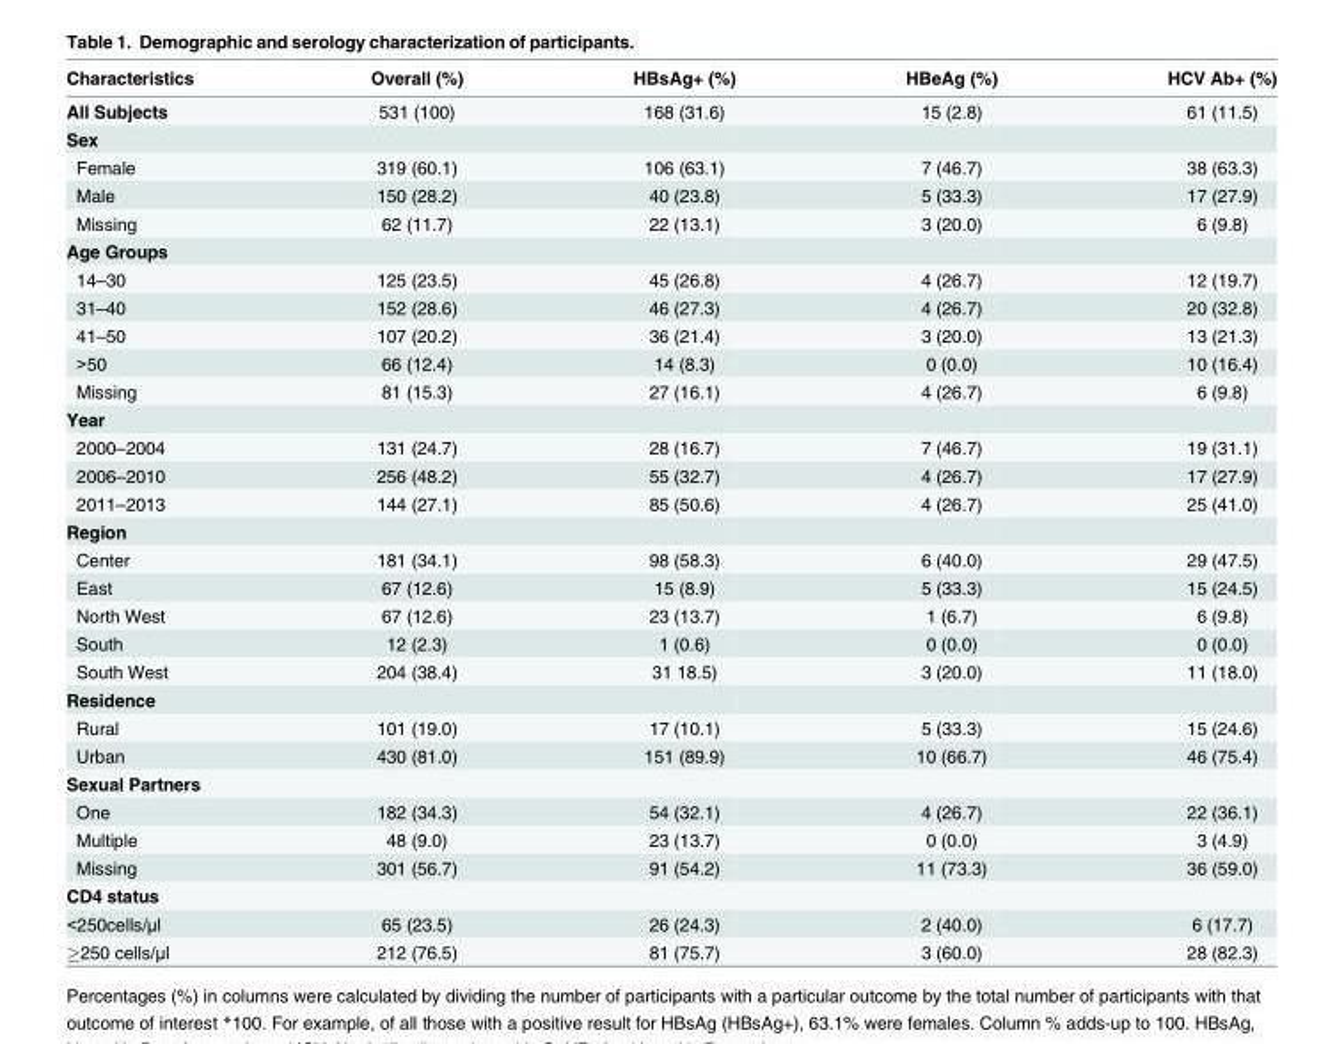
<table><thead><tr><td>Characteristics</td><td>Overall (%)</td><td>HBsAg+ (%)</td><td>HBeAg (%)</td><td>HCV Ab+ (%)</td></tr></thead><tbody><tr><td>All Subjects</td><td>531 (100)</td><td>168 (31.6)</td><td>15 (2.8)</td><td>61 (11.5)</td></tr><tr><td colspan="5">Sex</td></tr><tr><td>Female</td><td>319 (60.1)</td><td>106 (63.1)</td><td>7 (46.7)</td><td>38 (63.3)</td></tr><tr><td>Male</td><td>150 (28.2)</td><td>40 (23.8)</td><td>5 (33.3)</td><td>17 (27.9)</td></tr><tr><td>Missing</td><td>62 (11.7)</td><td>22 (13.1)</td><td>3 (20.0)</td><td>6 (9.8)</td></tr><tr><td colspan="5">Age Groups</td></tr><tr><td>14–30</td><td>125 (23.5)</td><td>45 (26.8)</td><td>4 (26.7)</td><td>12 (19.7)</td></tr><tr><td>31–40</td><td>152 (28.6)</td><td>46 (27.3)</td><td>4 (26.7)</td><td>20 (32.8)</td></tr><tr><td>41–50</td><td>107 (20.2)</td><td>36 (21.4)</td><td>3 (20.0)</td><td>13 (21.3)</td></tr><tr><td>&gt;50</td><td>66 (12.4)</td><td>14 (8.3)</td><td>0 (0.0)</td><td>10 (16.4)</td></tr><tr><td>Missing</td><td>81 (15.3)</td><td>27 (16.1)</td><td>4 (26.7)</td><td>6 (9.8)</td></tr><tr><td colspan="5">Year</td></tr><tr><td>2000–2004</td><td>131 (24.7)</td><td>28 (16.7)</td><td>7 (46.7)</td><td>19 (31.1)</td></tr><tr><td>2006–2010</td><td>256 (48.2)</td><td>55 (32.7)</td><td>4 (26.7)</td><td>17 (27.9)</td></tr><tr><td>2011–2013</td><td>144 (27.1)</td><td>85 (50.6)</td><td>4 (26.7)</td><td>25 (41.0)</td></tr><tr><td colspan="5">Region</td></tr><tr><td>Center</td><td>181 (34.1)</td><td>98 (58.3)</td><td>6 (40.0)</td><td>29 (47.5)</td></tr><tr><td>East</td><td>67 (12.6)</td><td>15 (8.9)</td><td>5 (33.3)</td><td>15 (24.5)</td></tr><tr><td>North West</td><td>67 (12.6)</td><td>23 (13.7)</td><td>1 (6.7)</td><td>6 (9.8)</td></tr><tr><td>South</td><td>12 (2.3)</td><td>1 (0.6)</td><td>0 (0.0)</td><td>0 (0.0)</td></tr><tr><td>South West</td><td>204 (38.4)</td><td>31 18.5)</td><td>3 (20.0)</td><td>11 (18.0)</td></tr><tr><td colspan="5">Residence</td></tr><tr><td>Rural</td><td>101 (19.0)</td><td>17 (10.1)</td><td>5 (33.3)</td><td>15 (24.6)</td></tr><tr><td>Urban</td><td>430 (81.0)</td><td>151 (89.9)</td><td>10 (66.7)</td><td>46 (75.4)</td></tr><tr><td colspan="5">Sexual Partners</td></tr><tr><td>One</td><td>182 (34.3)</td><td>54 (32.1)</td><td>4 (26.7)</td><td>22 (36.1)</td></tr><tr><td>Multiple</td><td>48 (9.0)</td><td>23 (13.7)</td><td>0 (0.0)</td><td>3 (4.9)</td></tr><tr><td>Missing</td><td>301 (56.7)</td><td>91 (54.2)</td><td>11 (73.3)</td><td>36 (59.0)</td></tr><tr><td colspan="5">CD4 status</td></tr><tr><td>&lt;250cells/μl</td><td>65 (23.5)</td><td>26 (24.3)</td><td>2 (40.0)</td><td>6 (17.7)</td></tr><tr><td>≥250 cells/μl</td><td>212 (76.5)</td><td>81 (75.7)</td><td>3 (60.0)</td><td>28 (82.3)</td></tr></tbody></table>